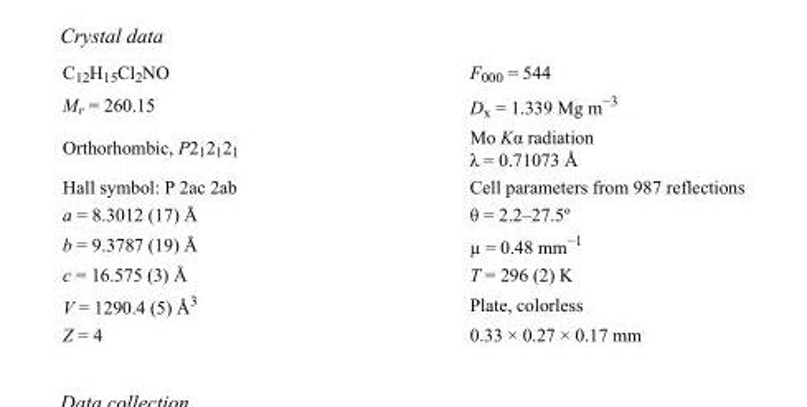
<table><tbody><tr><td>C<sub>12</sub>H<sub>15</sub>Cl<sub>2</sub>NO</td><td>F<sub>000</sub> = 544</td></tr><tr><td>M<sub>r</sub> = 260.15</td><td>D<sub>x</sub> = 1.339 Mg m<sup>−3</sup></td></tr><tr><td>Orthorhombic, P2<sub>1</sub>2<sub>1</sub>2<sub>1</sub></td><td>Mo Kα radiation λ = 0.71073 Å</td></tr><tr><td>Hall symbol: P 2ac 2ab</td><td>Cell parameters from 987 reflections</td></tr><tr><td>a = 8.3012 (17) Å</td><td>θ = 2.2–27.5º</td></tr><tr><td>b = 9.3787 (19) Å</td><td>µ = 0.48 mm<sup>−1</sup></td></tr><tr><td>c = 16.575 (3) Å</td><td>T = 296 (2) K</td></tr><tr><td>V = 1290.4 (5) Å<sup>3</sup></td><td>Plate, colorless</td></tr><tr><td>Z = 4</td><td>0.33 × 0.27 × 0.17 mm</td></tr></tbody></table>